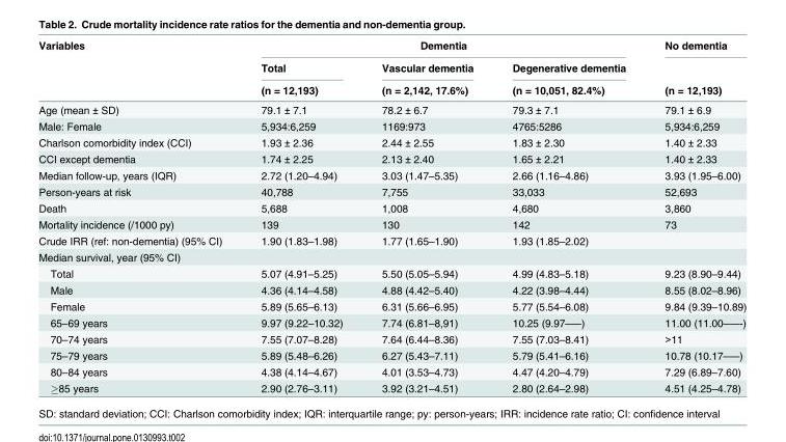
<table><thead><tr><td rowspan="3">Variables</td><td colspan="3">Dementia</td><td rowspan="3">No dementia (n = 12,193)</td></tr><tr><td rowspan="2">Total (n = 12,193)</td><td rowspan="2">Vascular dementia (n = 2,142, 17.6%)</td><td rowspan="2">Degenerative dementia (n = 10,051, 82.4%)</td></tr><tr></tr></thead><tbody><tr><td>Age (mean ± SD)</td><td>79.1 ± 7.1</td><td>78.2 ± 6.7</td><td>79.3 ± 7.1</td><td>79.1 ± 6.9</td></tr><tr><td>Male: Female</td><td>5,934:6,259</td><td>1169:973</td><td>4765:5286</td><td>5,934:6,259</td></tr><tr><td>Charlson comorbidity index (CCI)</td><td>1.93 ± 2.36</td><td>2.44 ± 2.55</td><td>1.83 ± 2.30</td><td>1.40 ± 2.33</td></tr><tr><td>CCI except dementia</td><td>1.74 ± 2.25</td><td>2.13 ± 2.40</td><td>1.65 ± 2.21</td><td>1.40 ± 2.33</td></tr><tr><td>Median follow-up, years (IQR)</td><td>2.72 (1.20–4.94)</td><td>3.03 (1.47–5.35)</td><td>2.66 (1.16–4.86)</td><td>3.93 (1.95–6.00)</td></tr><tr><td>Person-years at risk</td><td>40,788</td><td>7,755</td><td>33,033</td><td>52,693</td></tr><tr><td>Death</td><td>5,688</td><td>1,008</td><td>4,680</td><td>3,860</td></tr><tr><td>Mortality incidence (/1000 py)</td><td>139</td><td>130</td><td>142</td><td>73</td></tr><tr><td>Crude IRR (ref: non-dementia) (95% CI)</td><td>1.90 (1.83–1.98)</td><td>1.77 (1.65–1.90)</td><td>1.93 (1.85–2.02)</td><td></td></tr><tr><td colspan="5">Median survival, year (95% CI)</td></tr><tr><td>Total</td><td>5.07 (4.91–5.25)</td><td>5.50 (5.05–5.94)</td><td>4.99 (4.83–5.18)</td><td>9.23 (8.90–9.44)</td></tr><tr><td>Male</td><td>4.36 (4.14–4.58)</td><td>4.88 (4.42–5.40)</td><td>4.22 (3.98–4.44)</td><td>8.55 (8.02–8.96)</td></tr><tr><td>Female</td><td>5.89 (5.65–6.13)</td><td>6.31 (5.66–6.95)</td><td>5.77 (5.54–6.08)</td><td>9.84 (9.39–10.89)</td></tr><tr><td>65–69 years</td><td>9.97 (9.22–10.32)</td><td>7.74 (6.81–8,91)</td><td>10.25 (9.97–—)</td><td>11.00 (11.00–—-)</td></tr><tr><td>70–74 years</td><td>7.55 (7.07–8.28)</td><td>7.64 (6.44–8.36)</td><td>7.55 (7.03–8.41)</td><td>&gt;11</td></tr><tr><td>75–79 years</td><td>5.89 (5.48–6.26)</td><td>6.27 (5.43–7.11)</td><td>5.79 (5.41–6.16)</td><td>10.78 (10.17–—)</td></tr><tr><td>80–84 years</td><td>4.38 (4.14–4.67)</td><td>4.01 (3.53–4.73)</td><td>4.47 (4.20–4.79)</td><td>7.29 (6.89–7.60)</td></tr><tr><td>≥85 years</td><td>2.90 (2.76–3.11)</td><td>3.92 (3.21–4.51)</td><td>2.80 (2.64–2.98)</td><td>4.51 (4.25–4.78)</td></tr></tbody></table>